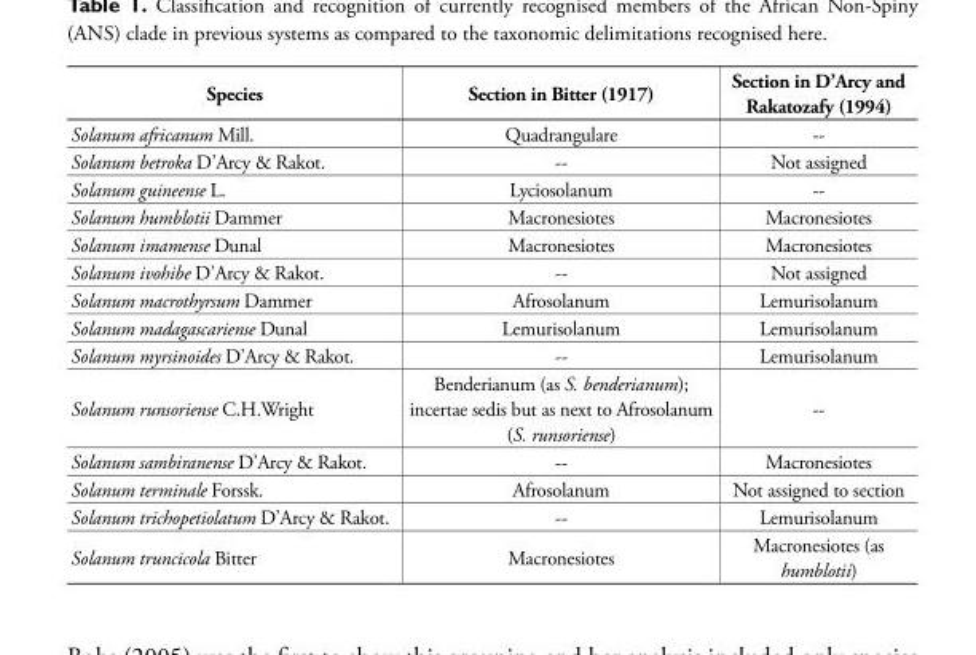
<table><thead><tr><td>Species</td><td>Section in Bitter (1917)</td><td>Section in D’Arcy and Rakatozafy (1994)</td></tr></thead><tbody><tr><td>Solanum africanum Mill.</td><td>Quadrangulare</td><td>--</td></tr><tr><td>Solanum betroka D’Arcy &amp; Rakot.</td><td>--</td><td>Not assigned</td></tr><tr><td>Solanum guineense L.</td><td>Lyciosolanum</td><td>--</td></tr><tr><td>Solanum humblotii Dammer</td><td>Macronesiotes</td><td>Macronesiotes</td></tr><tr><td>Solanum imamense Dunal</td><td>Macronesiotes</td><td>Macronesiotes</td></tr><tr><td>Solanum ivohibe D’Arcy &amp; Rakot.</td><td>--</td><td>Not assigned</td></tr><tr><td>Solanum macrothyrsum Dammer</td><td>Afrosolanum</td><td>Lemurisolanum</td></tr><tr><td>Solanum madagascariense Dunal</td><td>Lemurisolanum</td><td>Lemurisolanum</td></tr><tr><td>Solanum myrsinoides D’Arcy &amp; Rakot.</td><td>--</td><td>Lemurisolanum</td></tr><tr><td>Solanum runsoriense C.H.Wright</td><td>Benderianum (as S. benderianum); incertae sedis but as next to Afrosolanum (S. runsoriense)</td><td>--</td></tr><tr><td>Solanum sambiranense D’Arcy &amp; Rakot.</td><td>--</td><td>Macronesiotes</td></tr><tr><td>Solanum terminale Forssk.</td><td>Afrosolanum</td><td>Not assigned to section</td></tr><tr><td>Solanum trichopetiolatum D’Arcy &amp; Rakot.</td><td>--</td><td>Lemurisolanum</td></tr><tr><td>Solanum truncicola Bitter</td><td>Macronesiotes</td><td>Macronesiotes (as humblotii)</td></tr></tbody></table>